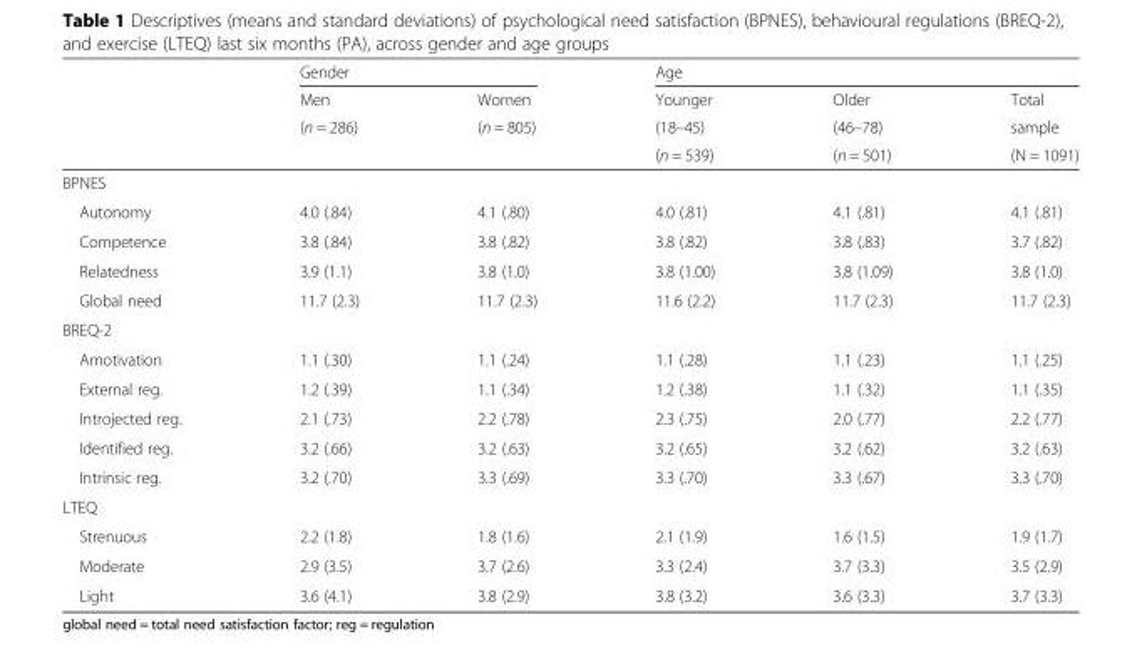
<table><thead><tr><td rowspan="4"></td><td colspan="2">Gender</td><td colspan="3">Age</td></tr><tr><td rowspan="3">Men (n = 286)</td><td rowspan="3">Women (n = 805)</td><td rowspan="3">Younger (18–45) (n = 539)</td><td rowspan="3">Older (46–78) (n = 501)</td><td rowspan="3">Total sample (N = 1091)</td></tr><tr></tr><tr></tr></thead><tbody><tr><td colspan="6">BPNES</td></tr><tr><td>Autonomy</td><td>4.0 (.84)</td><td>4.1 (.80)</td><td>4.0 (.81)</td><td>4.1 (.81)</td><td>4.1 (.81)</td></tr><tr><td>Competence</td><td>3.8 (.84)</td><td>3.8 (.82)</td><td>3.8 (.82)</td><td>3.8 (.83)</td><td>3.7 (.82)</td></tr><tr><td>Relatedness</td><td>3.9 (1.1)</td><td>3.8 (1.0)</td><td>3.8 (1.00)</td><td>3.8 (1.09)</td><td>3.8 (1.0)</td></tr><tr><td>Global need</td><td>11.7 (2.3)</td><td>11.7 (2.3)</td><td>11.6 (2.2)</td><td>11.7 (2.3)</td><td>11.7 (2.3)</td></tr><tr><td colspan="6">BREQ-2</td></tr><tr><td>Amotivation</td><td>1.1 (.30)</td><td>1.1 (.24)</td><td>1.1 (.28)</td><td>1.1 (.23)</td><td>1.1 (.25)</td></tr><tr><td>External reg.</td><td>1.2 (.39)</td><td>1.1 (.34)</td><td>1.2 (.38)</td><td>1.1 (.32)</td><td>1.1 (.35)</td></tr><tr><td>Introjected reg.</td><td>2.1 (.73)</td><td>2.2 (.78)</td><td>2.3 (.75)</td><td>2.0 (.77)</td><td>2.2 (.77)</td></tr><tr><td>Identified reg.</td><td>3.2 (.66)</td><td>3.2 (.63)</td><td>3.2 (.65)</td><td>3.2 (.62)</td><td>3.2 (.63)</td></tr><tr><td>Intrinsic reg.</td><td>3.2 (.70)</td><td>3.3 (.69)</td><td>3.3 (.70)</td><td>3.3 (.67)</td><td>3.3 (.70)</td></tr><tr><td colspan="6">LTEQ</td></tr><tr><td>Strenuous</td><td>2.2 (1.8)</td><td>1.8 (1.6)</td><td>2.1 (1.9)</td><td>1.6 (1.5)</td><td>1.9 (1.7)</td></tr><tr><td>Moderate</td><td>2.9 (3.5)</td><td>3.7 (2.6)</td><td>3.3 (2.4)</td><td>3.7 (3.3)</td><td>3.5 (2.9)</td></tr><tr><td>Light</td><td>3.6 (4.1)</td><td>3.8 (2.9)</td><td>3.8 (3.2)</td><td>3.6 (3.3)</td><td>3.7 (3.3)</td></tr></tbody></table>